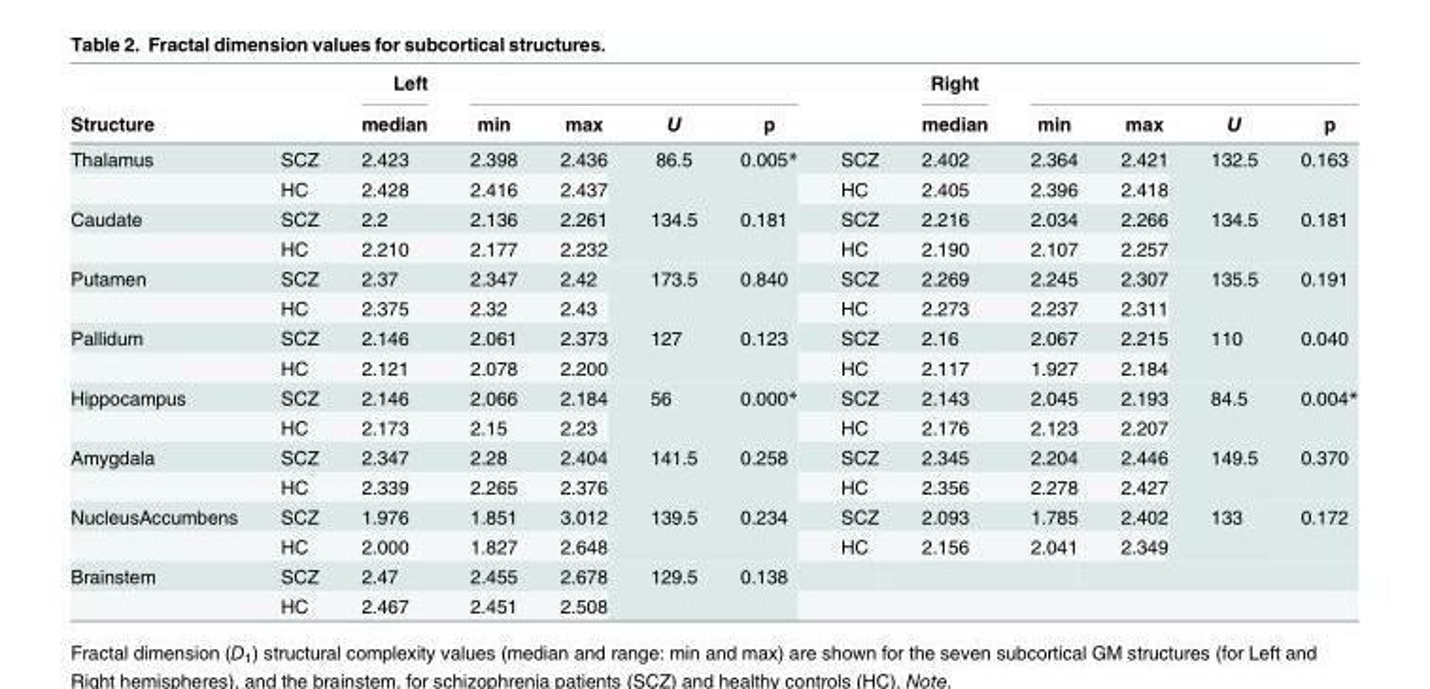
<table><thead><tr><td rowspan="2">Structure</td><td rowspan="2"></td><td rowspan="2">Left median</td><td rowspan="2">min</td><td rowspan="2">max</td><td rowspan="2">U</td><td rowspan="2">p</td><td rowspan="2"></td><td rowspan="2">Right median</td><td rowspan="2">min</td><td rowspan="2">max</td><td rowspan="2">U</td><td rowspan="2">p</td></tr><tr></tr></thead><tbody><tr><td rowspan="2">Thalamus</td><td>SCZ</td><td>2.423</td><td>2.398</td><td>2.436</td><td rowspan="2">86.5</td><td rowspan="2">0.005*</td><td>SCZ</td><td>2.402</td><td>2.364</td><td>2.421</td><td rowspan="2">132.5</td><td rowspan="2">0.163</td></tr><tr><td>HC</td><td>2.428</td><td>2.416</td><td>2.437</td><td>HC</td><td>2.405</td><td>2.396</td><td>2.418</td></tr><tr><td rowspan="2">Caudate</td><td>SCZ</td><td>2.2</td><td>2.136</td><td>2.261</td><td rowspan="2">134.5</td><td rowspan="2">0.181</td><td>SCZ</td><td>2.216</td><td>2.034</td><td>2.266</td><td rowspan="2">134.5</td><td rowspan="2">0.181</td></tr><tr><td>HC</td><td>2.210</td><td>2.177</td><td>2.232</td><td>HC</td><td>2.190</td><td>2.107</td><td>2.257</td></tr><tr><td rowspan="2">Putamen</td><td>SCZ</td><td>2.37</td><td>2.347</td><td>2.42</td><td rowspan="2">173.5</td><td rowspan="2">0.840</td><td>SCZ</td><td>2.269</td><td>2.245</td><td>2.307</td><td rowspan="2">135.5</td><td rowspan="2">0.191</td></tr><tr><td>HC</td><td>2.375</td><td>2.32</td><td>2.43</td><td>HC</td><td>2.273</td><td>2.237</td><td>2.311</td></tr><tr><td rowspan="2">Pallidum</td><td>SCZ</td><td>2.146</td><td>2.061</td><td>2.373</td><td rowspan="2">127</td><td rowspan="2">0.123</td><td>SCZ</td><td>2.16</td><td>2.067</td><td>2.215</td><td rowspan="2">110</td><td rowspan="2">0.040</td></tr><tr><td>HC</td><td>2.121</td><td>2.078</td><td>2.200</td><td>HC</td><td>2.117</td><td>1.927</td><td>2.184</td></tr><tr><td rowspan="2">Hippocampus</td><td>SCZ</td><td>2.146</td><td>2.066</td><td>2.184</td><td rowspan="2">56</td><td rowspan="2">0.000*</td><td>SCZ</td><td>2.143</td><td>2.045</td><td>2.193</td><td rowspan="2">84.5</td><td rowspan="2">0.004*</td></tr><tr><td>HC</td><td>2.173</td><td>2.15</td><td>2.23</td><td>HC</td><td>2.176</td><td>2.123</td><td>2.207</td></tr><tr><td rowspan="2">Amygdala</td><td>SCZ</td><td>2.347</td><td>2.28</td><td>2.404</td><td rowspan="2">141.5</td><td rowspan="2">0.258</td><td>SCZ</td><td>2.345</td><td>2.204</td><td>2.446</td><td rowspan="2">149.5</td><td rowspan="2">0.370</td></tr><tr><td>HC</td><td>2.339</td><td>2.265</td><td>2.376</td><td>HC</td><td>2.356</td><td>2.278</td><td>2.427</td></tr><tr><td rowspan="2">NucleusAccumbens</td><td>SCZ</td><td>1.976</td><td>1.851</td><td>3.012</td><td rowspan="2">139.5</td><td rowspan="2">0.234</td><td>SCZ</td><td>2.093</td><td>1.785</td><td>2.402</td><td rowspan="2">133</td><td rowspan="2">0.172</td></tr><tr><td>HC</td><td>2.000</td><td>1.827</td><td>2.648</td><td>HC</td><td>2.156</td><td>2.041</td><td>2.349</td></tr><tr><td rowspan="2">Brainstem</td><td>SCZ</td><td>2.47</td><td>2.455</td><td>2.678</td><td rowspan="2">129.5</td><td rowspan="2">0.138</td><td></td><td></td><td></td><td></td><td></td><td></td></tr><tr><td>HC</td><td>2.467</td><td>2.451</td><td>2.508</td><td></td><td></td><td></td><td></td><td></td><td></td></tr></tbody></table>